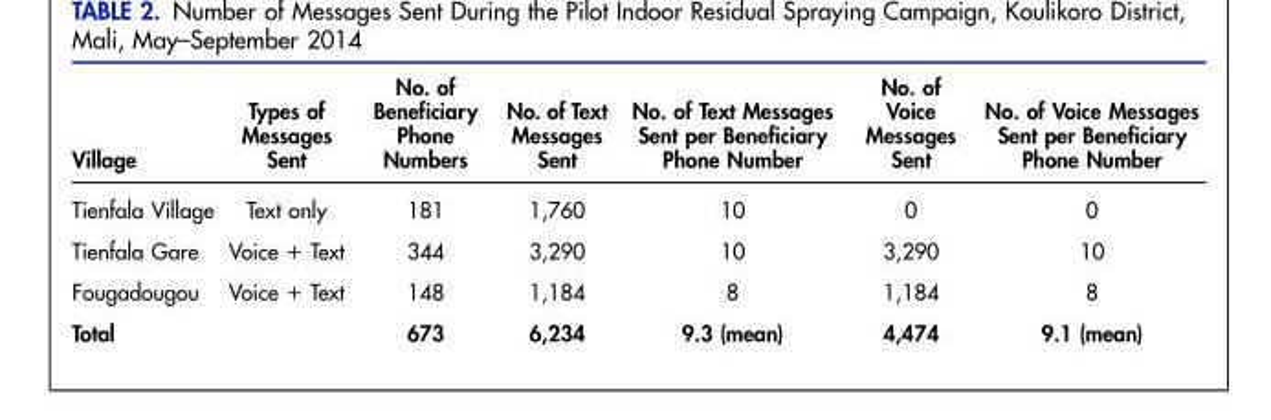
<table><thead><tr><td>Village</td><td>Types of Messages Sent</td><td>No. of Beneficiary Phone Numbers</td><td>No. of Text Messages Sent</td><td>No. of Text Messages Sent per Beneficiary Phone Number</td><td>No. of Voice Messages Sent</td><td>No. of Voice Messages Sent per Beneficiary Phone Number</td></tr></thead><tbody><tr><td>Tienfala Village</td><td>Text only</td><td>181</td><td>1,760</td><td>10</td><td>0</td><td>0</td></tr><tr><td>Tienfala Gare</td><td>Voice + Text</td><td>344</td><td>3,290</td><td>10</td><td>3,290</td><td>10</td></tr><tr><td>Fougadougou</td><td>Voice + Text</td><td>148</td><td>1,184</td><td>8</td><td>1,184</td><td>8</td></tr><tr><td>Total</td><td></td><td>673</td><td>6,234</td><td>9.3 (mean)</td><td>4,474</td><td>9.1 (mean)</td></tr></tbody></table>